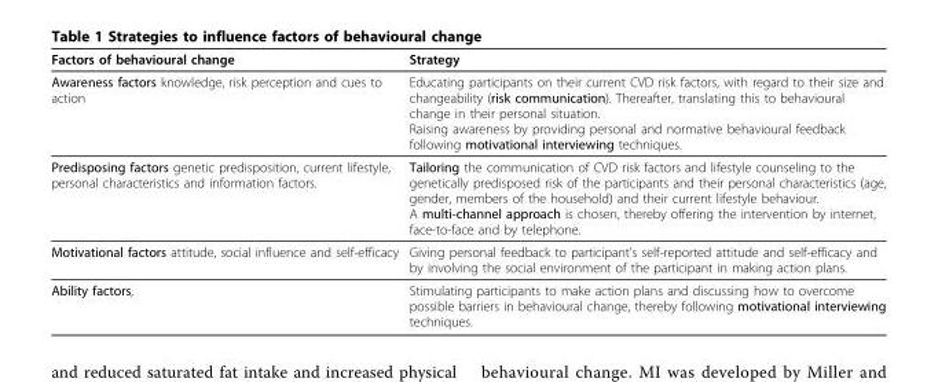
<table><thead><tr><td>Factors of behavioural change</td><td>Strategy</td></tr></thead><tbody><tr><td>Awareness factors knowledge, risk perception and cues to action</td><td>Educating participants on their current CVD risk factors, with regard to their size and changeability (risk communication). Thereafter, translating this to behavioural change in their personal situation. Raising awareness by providing personal and normative behavioural feedback following motivational interviewing techniques.</td></tr><tr><td>Predisposing factors genetic predisposition, current lifestyle, personal characteristics and information factors.</td><td>Tailoring the communication of CVD risk factors and lifestyle counseling to the genetically predisposed risk of the participants and their personal characteristics (age, gender, members of the household) and their current lifestyle behaviour. A multi-channel approach is chosen, thereby offering the intervention by internet, face-to-face and by telephone.</td></tr><tr><td>Motivational factors attitude, social influence and self-efficacy</td><td>Giving personal feedback to participant’s self-reported attitude and self-efficacy and by involving the social environment of the participant in making action plans.</td></tr><tr><td>Ability factors,</td><td>Stimulating participants to make action plans and discussing how to overcome possible barriers in behavioural change, thereby following motivational interviewing techniques.</td></tr></tbody></table>